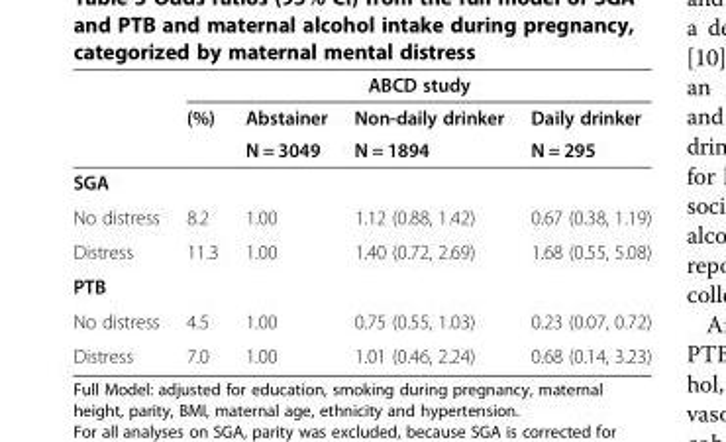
<table><thead><tr><td rowspan="3"></td><td colspan="4">ABCD study</td></tr><tr><td rowspan="2">(%)</td><td rowspan="2">Abstainer N = 3049</td><td rowspan="2">Non-daily drinker N = 1894</td><td rowspan="2">Daily drinker N = 295</td></tr><tr></tr></thead><tbody><tr><td colspan="5">SGA</td></tr><tr><td>No distress</td><td>8.2</td><td>1.00</td><td>1.12 (0.88, 1.42)</td><td>0.67 (0.38, 1.19)</td></tr><tr><td>Distress</td><td>11.3</td><td>1.00</td><td>1.40 (0.72, 2.69)</td><td>1.68 (0.55, 5.08)</td></tr><tr><td colspan="5">PTB</td></tr><tr><td>No distress</td><td>4.5</td><td>1.00</td><td>0.75 (0.55, 1.03)</td><td>0.23 (0.07, 0.72)</td></tr><tr><td>Distress</td><td>7.0</td><td>1.00</td><td>1.01 (0.46, 2.24)</td><td>0.68 (0.14, 3.23)</td></tr></tbody></table>